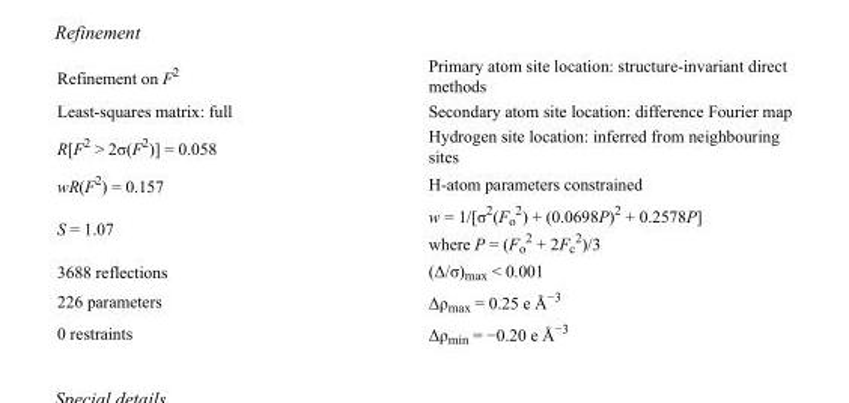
<table><tbody><tr><td>Refinement on F<sup>2</sup></td><td>Primary atom site location: structure-invariant direct methods</td></tr><tr><td>Least-squares matrix: full</td><td>Secondary atom site location: difference Fourier map</td></tr><tr><td>R[F<sup>2</sup> &gt; 2σ(F<sup>2</sup>)] = 0.058</td><td>Hydrogen site location: inferred from neighbouring sites</td></tr><tr><td>wR(F<sup>2</sup>) = 0.157</td><td>H-atom parameters constrained</td></tr><tr><td>S = 1.07</td><td>w = 1/[σ<sup>2</sup>(F<sub>o</sub> <sup>2</sup>) + (0.0698P)<sup>2</sup> + 0.2578P] where P = (F<sub>o</sub> <sup>2</sup> + 2F<sub>c</sub> <sup>2</sup>)/3</td></tr><tr><td>3688 reflections</td><td>(Δ/σ)<sub>max</sub> &lt; 0.001</td></tr><tr><td>226 parameters</td><td>Δρ<sub>max</sub> = 0.25 e Å<sup>−3</sup></td></tr><tr><td>0 restraints</td><td>Δρ<sub>min</sub> = −0.20 e Å<sup>−3</sup></td></tr></tbody></table>